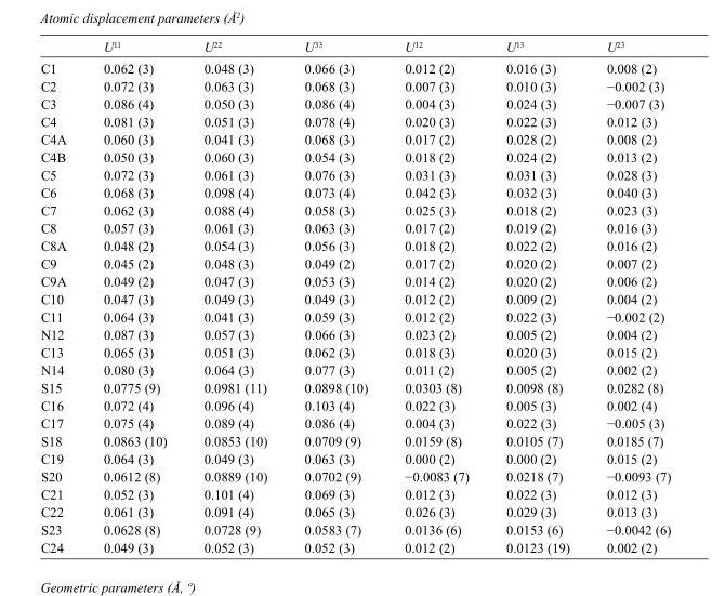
<table><thead><tr><td></td><td>U<sup>11</sup></td><td>U<sup>22</sup></td><td>U<sup>33</sup></td><td>U<sup>12</sup></td><td>U<sup>13</sup></td><td>U<sup>23</sup></td></tr></thead><tbody><tr><td>C1</td><td>0.062 (3)</td><td>0.048 (3)</td><td>0.066 (3)</td><td>0.012 (2)</td><td>0.016 (3)</td><td>0.008 (2)</td></tr><tr><td>C2</td><td>0.072 (3)</td><td>0.063 (3)</td><td>0.068 (3)</td><td>0.007 (3)</td><td>0.010 (3)</td><td>−0.002 (3)</td></tr><tr><td>C3</td><td>0.086 (4)</td><td>0.050 (3)</td><td>0.086 (4)</td><td>0.004 (3)</td><td>0.024 (3)</td><td>−0.007 (3)</td></tr><tr><td>C4</td><td>0.081 (3)</td><td>0.051 (3)</td><td>0.078 (4)</td><td>0.020 (3)</td><td>0.022 (3)</td><td>0.012 (3)</td></tr><tr><td>C4A</td><td>0.060 (3)</td><td>0.041 (3)</td><td>0.068 (3)</td><td>0.017 (2)</td><td>0.028 (2)</td><td>0.008 (2)</td></tr><tr><td>C4B</td><td>0.050 (3)</td><td>0.060 (3)</td><td>0.054 (3)</td><td>0.018 (2)</td><td>0.024 (2)</td><td>0.013 (2)</td></tr><tr><td>C5</td><td>0.072 (3)</td><td>0.061 (3)</td><td>0.076 (3)</td><td>0.031 (3)</td><td>0.031 (3)</td><td>0.028 (3)</td></tr><tr><td>C6</td><td>0.068 (3)</td><td>0.098 (4)</td><td>0.073 (4)</td><td>0.042 (3)</td><td>0.032 (3)</td><td>0.040 (3)</td></tr><tr><td>C7</td><td>0.062 (3)</td><td>0.088 (4)</td><td>0.058 (3)</td><td>0.025 (3)</td><td>0.018 (2)</td><td>0.023 (3)</td></tr><tr><td>C8</td><td>0.057 (3)</td><td>0.061 (3)</td><td>0.063 (3)</td><td>0.017 (2)</td><td>0.019 (2)</td><td>0.016 (3)</td></tr><tr><td>C8A</td><td>0.048 (2)</td><td>0.054 (3)</td><td>0.056 (3)</td><td>0.018 (2)</td><td>0.022 (2)</td><td>0.016 (2)</td></tr><tr><td>C9</td><td>0.045 (2)</td><td>0.048 (3)</td><td>0.049 (2)</td><td>0.017 (2)</td><td>0.020 (2)</td><td>0.007 (2)</td></tr><tr><td>C9A</td><td>0.049 (2)</td><td>0.047 (3)</td><td>0.053 (3)</td><td>0.014 (2)</td><td>0.020 (2)</td><td>0.006 (2)</td></tr><tr><td>C10</td><td>0.047 (3)</td><td>0.049 (3)</td><td>0.049 (3)</td><td>0.012 (2)</td><td>0.009 (2)</td><td>0.004 (2)</td></tr><tr><td>C11</td><td>0.064 (3)</td><td>0.041 (3)</td><td>0.059 (3)</td><td>0.012 (2)</td><td>0.022 (3)</td><td>−0.002 (2)</td></tr><tr><td>N12</td><td>0.087 (3)</td><td>0.057 (3)</td><td>0.066 (3)</td><td>0.023 (2)</td><td>0.005 (2)</td><td>0.004 (2)</td></tr><tr><td>C13</td><td>0.065 (3)</td><td>0.051 (3)</td><td>0.062 (3)</td><td>0.018 (3)</td><td>0.020 (3)</td><td>0.015 (2)</td></tr><tr><td>N14</td><td>0.080 (3)</td><td>0.064 (3)</td><td>0.077 (3)</td><td>0.011 (2)</td><td>0.005 (2)</td><td>0.002 (2)</td></tr><tr><td>S15</td><td>0.0775 (9)</td><td>0.0981 (11)</td><td>0.0898 (10)</td><td>0.0303 (8)</td><td>0.0098 (8)</td><td>0.0282 (8)</td></tr><tr><td>C16</td><td>0.072 (4)</td><td>0.096 (4)</td><td>0.103 (4)</td><td>0.022 (3)</td><td>0.005 (3)</td><td>0.002 (4)</td></tr><tr><td>C17</td><td>0.075 (4)</td><td>0.089 (4)</td><td>0.086 (4)</td><td>0.004 (3)</td><td>0.022 (3)</td><td>−0.005 (3)</td></tr><tr><td>S18</td><td>0.0863 (10)</td><td>0.0853 (10)</td><td>0.0709 (9)</td><td>0.0159 (8)</td><td>0.0105 (7)</td><td>0.0185 (7)</td></tr><tr><td>C19</td><td>0.064 (3)</td><td>0.049 (3)</td><td>0.063 (3)</td><td>0.000 (2)</td><td>0.000 (2)</td><td>0.015 (2)</td></tr><tr><td>S20</td><td>0.0612 (8)</td><td>0.0889 (10)</td><td>0.0702 (9)</td><td>−0.0083 (7)</td><td>0.0218 (7)</td><td>−0.0093 (7)</td></tr><tr><td>C21</td><td>0.052 (3)</td><td>0.101 (4)</td><td>0.069 (3)</td><td>0.012 (3)</td><td>0.022 (3)</td><td>0.012 (3)</td></tr><tr><td>C22</td><td>0.061 (3)</td><td>0.091 (4)</td><td>0.065 (3)</td><td>0.026 (3)</td><td>0.029 (3)</td><td>0.013 (3)</td></tr><tr><td>S23</td><td>0.0628 (8)</td><td>0.0728 (9)</td><td>0.0583 (7)</td><td>0.0136 (6)</td><td>0.0153 (6)</td><td>−0.0042 (6)</td></tr><tr><td>C24</td><td>0.049 (3)</td><td>0.052 (3)</td><td>0.052 (3)</td><td>0.012 (2)</td><td>0.0123 (19)</td><td>0.002 (2)</td></tr></tbody></table>